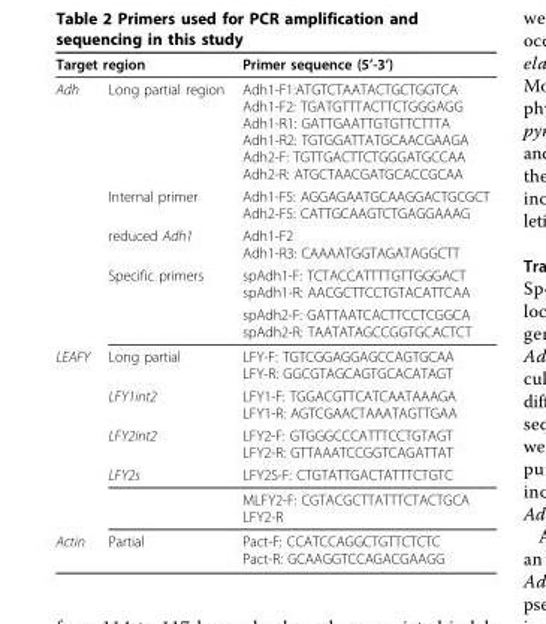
<table><thead><tr><td colspan="2">Target region</td><td rowspan="2">Primer sequence (5’-3’) Adh1-F1:ATGTCTAATACTGCTGGTCA Adh1-F2: TGATGTTTACTTCTGGGAGG Adh1-R1: GATTGAATTGTGTTCTTTA Adh1-R2: TGTGGATTATGCAACGAAGA Adh2-F: TGTTGACTTCTGGGATGCCAA Adh2-R: ATGCTAACGATGCACCGCAA</td></tr><tr><td>Adh</td><td>Long partial region</td></tr></thead><tbody><tr><td></td><td>Internal primer</td><td>Adh1-F5: AGGAGAATGCAAGGACTGCGCT Adh2-F5: CATTGCAAGTCTGAGGAAAG</td></tr><tr><td></td><td>reduced Adh1</td><td>Adh1-F2 Adh1-R3: CAAAATGGTAGATAGGCTT</td></tr><tr><td></td><td>Specific primers</td><td>spAdh1-F: TCTACCATTTTGTTGGGACT spAdh1-R: AACGCTTCCTGTACATTCAA</td></tr><tr><td></td><td></td><td>spAdh2-F: GATTAATCACTTCCTCGGCA spAdh2-R: TAATATAGCCGGTGCACTCT</td></tr><tr><td rowspan="5">LEAFY</td><td>Long partial</td><td>LFY-F: TGTCGGAGGAGCCAGTGCAA LFY-R: GGCGTAGCAGTGCACATAGT</td></tr><tr><td>LFY1int2</td><td>LFY1-F: TGGACGTTCATCAATAAAGA LFY1-R: AGTCGAACTAAATAGTTGAA</td></tr><tr><td>LFY2int2</td><td>LFY2-F: GTGGGCCCATTTCCTGTAGT LFY2-R: GTTAAATCCGGTCAGATTAT</td></tr><tr><td>LFY2s</td><td>LFY2S-F: CTGTATTGACTATTTCTGTC</td></tr><tr><td></td><td>MLFY2-F: CGTACGCTTATTTCTACTGCA LFY2-R</td></tr><tr><td>Actin</td><td>Partial</td><td>Pact-F: CCATCCAGGCTGTTCTCTC Pact-R: GCAAGGTCCAGACGAAGG</td></tr></tbody></table>